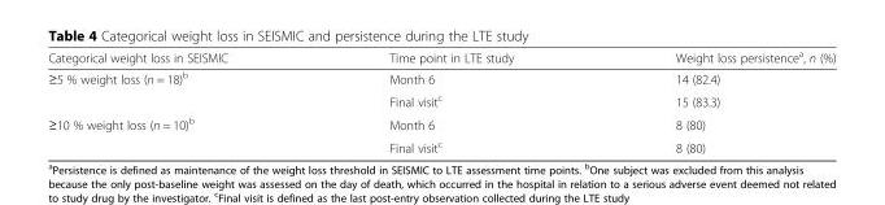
<table><thead><tr><td>Categorical weight loss in SEISMIC</td><td>Time point in LTE study</td><td>Weight loss persistence<sup>a</sup>, n (%)</td></tr></thead><tbody><tr><td rowspan="2">≥5 % weight loss (n = 18)<sup>b</sup></td><td>Month 6</td><td>14 (82.4)</td></tr><tr><td>Final visit<sup>c</sup></td><td>15 (83.3)</td></tr><tr><td rowspan="2">≥10 % weight loss (n = 10)<sup>b</sup></td><td>Month 6</td><td>8 (80)</td></tr><tr><td>Final visit<sup>c</sup></td><td>8 (80)</td></tr></tbody></table>